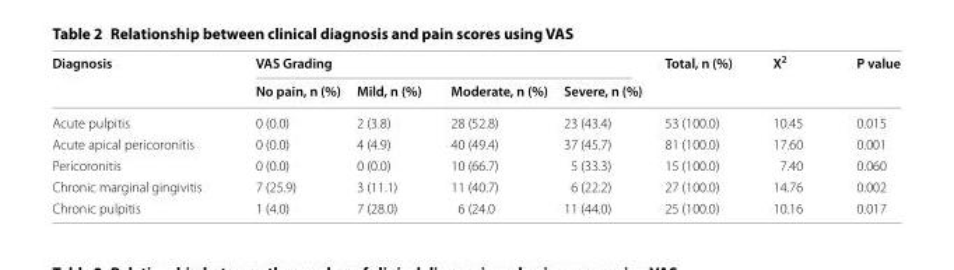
<table><thead><tr><td rowspan="2">Diagnosis</td><td colspan="4">VAS Grading</td><td rowspan="2">Total, n (%)</td><td rowspan="2">X<sup>2</sup></td><td rowspan="2">P value</td></tr><tr><td>No pain, n (%)</td><td>Mild, n (%)</td><td>Moderate, n (%)</td><td>Severe, n (%)</td></tr></thead><tbody><tr><td>Acute pulpitis</td><td>0 (0.0)</td><td>2 (3.8)</td><td>28 (52.8)</td><td>23 (43.4)</td><td>53 (100.0)</td><td>10.45</td><td>0.015</td></tr><tr><td>Acute apical pericoronitis</td><td>0 (0.0)</td><td>4 (4.9)</td><td>40 (49.4)</td><td>37 (45.7)</td><td>81 (100.0)</td><td>17.60</td><td>0.001</td></tr><tr><td>Pericoronitis</td><td>0 (0.0)</td><td>0 (0.0)</td><td>10 (66.7)</td><td>5 (33.3)</td><td>15 (100.0)</td><td>7.40</td><td>0.060</td></tr><tr><td>Chronic marginal gingivitis</td><td>7 (25.9)</td><td>3 (11.1)</td><td>11 (40.7)</td><td>6 (22.2)</td><td>27 (100.0)</td><td>14.76</td><td>0.002</td></tr><tr><td>Chronic pulpitis</td><td>1 (4.0)</td><td>7 (28.0)</td><td>6 (24.0</td><td>11 (44.0)</td><td>25 (100.0)</td><td>10.16</td><td>0.017</td></tr></tbody></table>